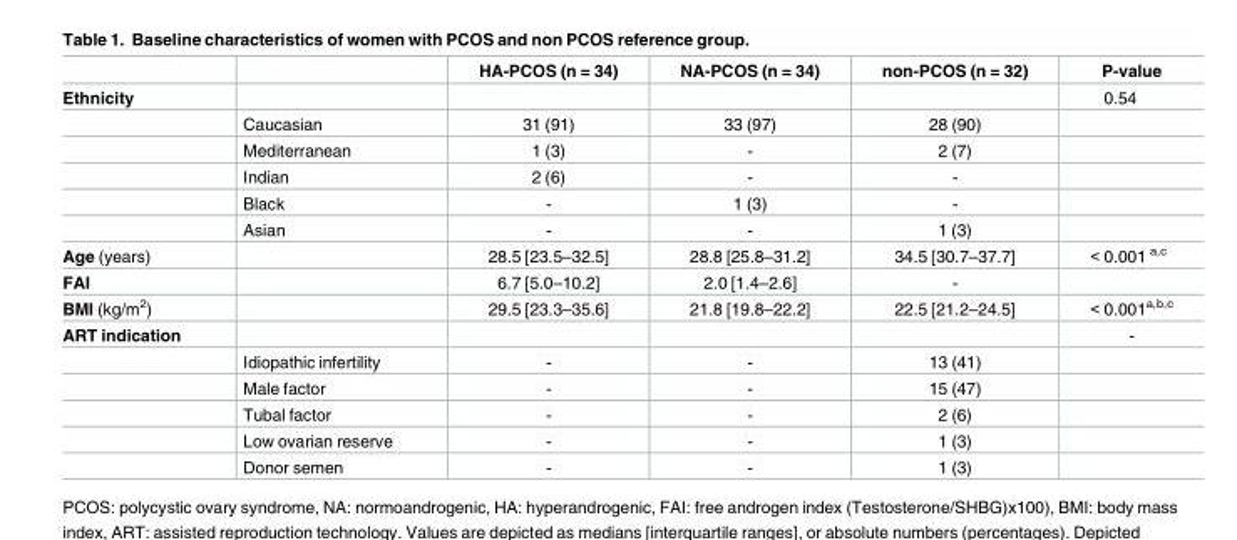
<table><thead><tr><td></td><td></td><td>HA-PCOS (n = 34)</td><td>NA-PCOS (n = 34)</td><td>non-PCOS (n = 32)</td><td>P-value</td></tr></thead><tbody><tr><td rowspan="6">Ethnicity</td><td></td><td></td><td></td><td></td><td>0.54</td></tr><tr><td>Caucasian</td><td>31 (91)</td><td>33 (97)</td><td>28 (90)</td><td></td></tr><tr><td>Mediterranean</td><td>1 (3)</td><td>-</td><td>2 (7)</td><td></td></tr><tr><td>Indian</td><td>2 (6)</td><td>-</td><td>-</td><td></td></tr><tr><td>Black</td><td>-</td><td>1 (3)</td><td>-</td><td></td></tr><tr><td>Asian</td><td>-</td><td>-</td><td>1 (3)</td><td></td></tr><tr><td>Age (years)</td><td></td><td>28.5 [23.5–32.5]</td><td>28.8 [25.8–31.2]</td><td>34.5 [30.7–37.7]</td><td>&lt; 0.001 <sup>a,c</sup></td></tr><tr><td>FAI</td><td></td><td>6.7 [5.0–10.2]</td><td>2.0 [1.4–2.6]</td><td>-</td><td></td></tr><tr><td>BMI (kg/m<sup>2</sup>)</td><td></td><td>29.5 [23.3–35.6]</td><td>21.8 [19.8–22.2]</td><td>22.5 [21.2–24.5]</td><td>&lt; 0.001<sup>a,b,c</sup></td></tr><tr><td rowspan="6">ART indication</td><td></td><td></td><td></td><td></td><td>-</td></tr><tr><td>Idiopathic infertility</td><td>-</td><td>-</td><td>13 (41)</td><td></td></tr><tr><td>Male factor</td><td>-</td><td>-</td><td>15 (47)</td><td></td></tr><tr><td>Tubal factor</td><td>-</td><td>-</td><td>2 (6)</td><td></td></tr><tr><td>Low ovarian reserve</td><td>-</td><td>-</td><td>1 (3)</td><td></td></tr><tr><td>Donor semen</td><td>-</td><td>-</td><td>1 (3)</td><td></td></tr></tbody></table>